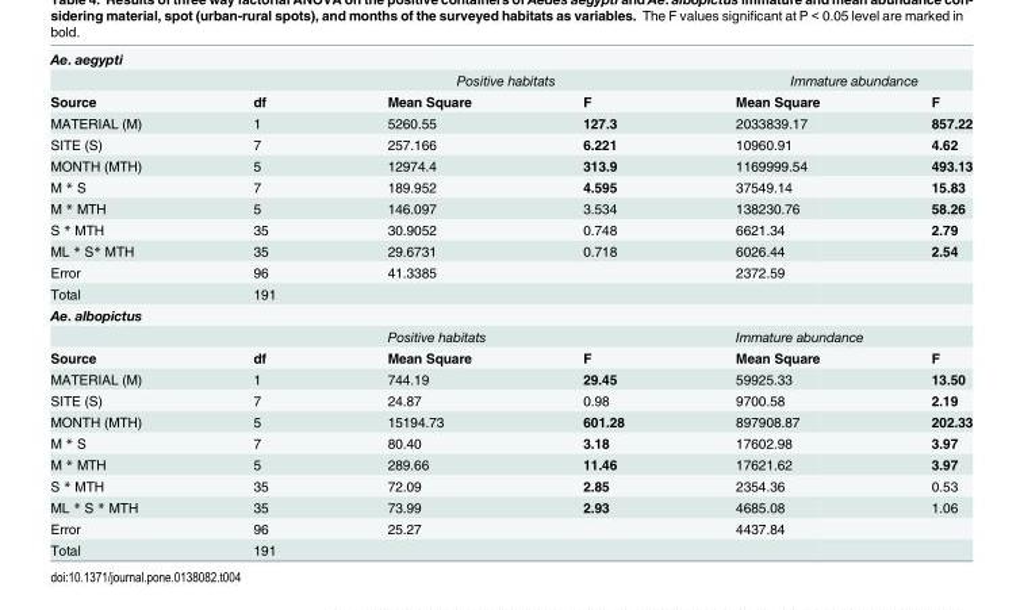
<table><tbody><tr><td colspan="6">Ae. aegypti</td></tr><tr><td></td><td></td><td colspan="2">Positive habitats</td><td colspan="2">Immature abundance</td></tr><tr><td>Source</td><td>df</td><td>Mean Square</td><td>F</td><td>Mean Square</td><td>F</td></tr><tr><td>MATERIAL (M)</td><td>1</td><td>5260.55</td><td>127.3</td><td>2033839.17</td><td>857.22</td></tr><tr><td>SITE (S)</td><td>7</td><td>257.166</td><td>6.221</td><td>10960.91</td><td>4.62</td></tr><tr><td>MONTH (MTH)</td><td>5</td><td>12974.4</td><td>313.9</td><td>1169999.54</td><td>493.13</td></tr><tr><td>M * S</td><td>7</td><td>189.952</td><td>4.595</td><td>37549.14</td><td>15.83</td></tr><tr><td>M * MTH</td><td>5</td><td>146.097</td><td>3.534</td><td>138230.76</td><td>58.26</td></tr><tr><td>S * MTH</td><td>35</td><td>30.9052</td><td>0.748</td><td>6621.34</td><td>2.79</td></tr><tr><td>ML * S* MTH</td><td>35</td><td>29.6731</td><td>0.718</td><td>6026.44</td><td>2.54</td></tr><tr><td>Error</td><td>96</td><td>41.3385</td><td></td><td>2372.59</td><td></td></tr><tr><td>Total</td><td>191</td><td></td><td></td><td></td><td></td></tr><tr><td colspan="6">Ae. albopictus</td></tr><tr><td></td><td></td><td colspan="2">Positive habitats</td><td colspan="2">Immature abundance</td></tr><tr><td>Source</td><td>df</td><td>Mean Square</td><td>F</td><td>Mean Square</td><td>F</td></tr><tr><td>MATERIAL (M)</td><td>1</td><td>744.19</td><td>29.45</td><td>59925.33</td><td>13.50</td></tr><tr><td>SITE (S)</td><td>7</td><td>24.87</td><td>0.98</td><td>9700.58</td><td>2.19</td></tr><tr><td>MONTH (MTH)</td><td>5</td><td>15194.73</td><td>601.28</td><td>897908.87</td><td>202.33</td></tr><tr><td>M * S</td><td>7</td><td>80.40</td><td>3.18</td><td>17602.98</td><td>3.97</td></tr><tr><td>M * MTH</td><td>5</td><td>289.66</td><td>11.46</td><td>17621.62</td><td>3.97</td></tr><tr><td>S * MTH</td><td>35</td><td>72.09</td><td>2.85</td><td>2354.36</td><td>0.53</td></tr><tr><td>ML * S * MTH</td><td>35</td><td>73.99</td><td>2.93</td><td>4685.08</td><td>1.06</td></tr><tr><td>Error</td><td>96</td><td>25.27</td><td></td><td>4437.84</td><td></td></tr><tr><td>Total</td><td>191</td><td></td><td></td><td></td><td></td></tr></tbody></table>